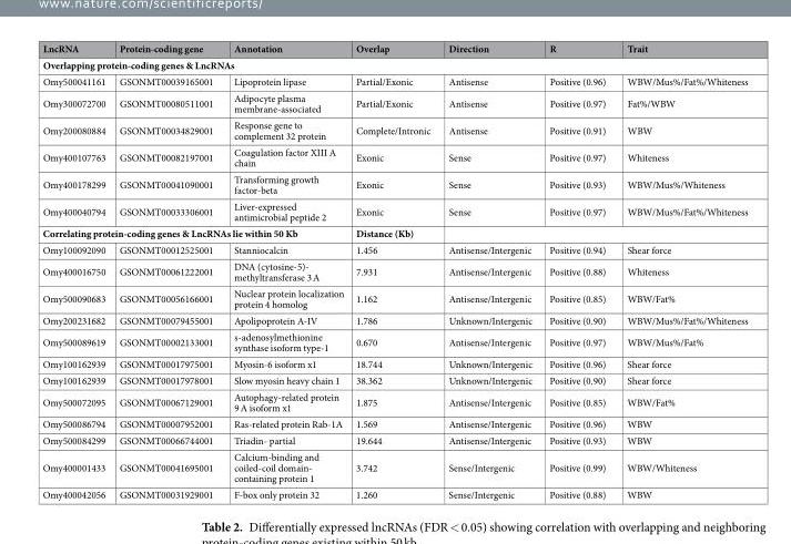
<table><thead><tr><td>LncRNA</td><td>Protein-coding gene</td><td>Annotation</td><td>Overlap</td><td>Direction</td><td>R</td><td>Trait</td></tr></thead><tbody><tr><td colspan="7">Overlapping protein-coding genes &amp; LncRNAs</td></tr><tr><td>Omy500041161</td><td>GSONMT00039165001</td><td>Lipoprotein lipase</td><td>Partial/Exonic</td><td>Antisense</td><td>Positive (0.96)</td><td>WBW/Mus%/Fat%/Whiteness</td></tr><tr><td>Omy300072700</td><td>GSONMT00080511001</td><td>Adipocyte plasma membrane-associated</td><td>Partial/Exonic</td><td>Antisense</td><td>Positive (0.97)</td><td>Fat%/WBW</td></tr><tr><td>Omy200080884</td><td>GSONMT00034829001</td><td>Response gene to complement 32 protein</td><td>Complete/Intronic</td><td>Antisense</td><td>Positive (0.91)</td><td>WBW</td></tr><tr><td>Omy400107763</td><td>GSONMT00082197001</td><td>Coagulation factor XIII A chain</td><td>Exonic</td><td>Sense</td><td>Positive (0.97)</td><td>Whiteness</td></tr><tr><td>Omy400178299</td><td>GSONMT00041090001</td><td>Transforming growth factor-beta</td><td>Exonic</td><td>Sense</td><td>Positive (0.93)</td><td>WBW/Mus%/Whiteness</td></tr><tr><td>Omy400040794</td><td>GSONMT00033306001</td><td>Liver-expressed antimicrobial peptide 2</td><td>Exonic</td><td>Sense</td><td>Positive (0.97)</td><td>WBW/Mus%/Fat%/Whiteness</td></tr><tr><td colspan="3">Correlating protein-coding genes &amp; LncRNAs lie within 50 Kb</td><td>Distance (Kb)</td><td colspan="3"></td></tr><tr><td>Omy100092090</td><td>GSONMT00012525001</td><td>Stanniocalcin</td><td>1.456</td><td>Antisense/Intergenic</td><td>Positive (0.94)</td><td>Shear force</td></tr><tr><td>Omy400016750</td><td>GSONMT00061222001</td><td>DNA (cytosine-5)- methyltransferase 3 A</td><td>7.931</td><td>Antisense/Intergenic</td><td>Positive (0.88)</td><td>Whiteness</td></tr><tr><td>Omy500090683</td><td>GSONMT00056166001</td><td>Nuclear protein localization protein 4 homolog</td><td>1.162</td><td>Antisense/Intergenic</td><td>Positive (0.85)</td><td>WBW/Fat%</td></tr><tr><td>Omy200231682</td><td>GSONMT00079455001</td><td>Apolipoprotein A-IV</td><td>1.786</td><td>Unknown/Intergenic</td><td>Positive (0.90)</td><td>WBW/Mus%/Fat%/Whiteness</td></tr><tr><td>Omy500089619</td><td>GSONMT00002133001</td><td>s-adenosylmethionine synthase isoform type-1</td><td>0.670</td><td>Antisense/Intergenic</td><td>Positive (0.97)</td><td>WBW/Mus%/Fat%</td></tr><tr><td>Omy100162939</td><td>GSONMT00017975001</td><td>Myosin-6 isoform x1</td><td>18.744</td><td>Unknown/Intergenic</td><td>Positive (0.96)</td><td>Shear force</td></tr><tr><td>Omy100162939</td><td>GSONMT00017978001</td><td>Slow myosin heavy chain 1</td><td>38.362</td><td>Unknown/Intergenic</td><td>Positive (0.90)</td><td>Shear force</td></tr><tr><td>Omy500072095</td><td>GSONMT00067129001</td><td>Autophagy-related protein 9 A isoform x1</td><td>1.875</td><td>Antisense/Intergenic</td><td>Positive (0.85)</td><td>WBW/Fat%</td></tr><tr><td>Omy500086794</td><td>GSONMT00007952001</td><td>Ras-related protein Rab-1A</td><td>1.569</td><td>Antisense/Intergenic</td><td>Positive (0.96)</td><td>WBW</td></tr><tr><td>Omy500084299</td><td>GSONMT00066744001</td><td>Triadin- partial</td><td>19.644</td><td>Antisense/Intergenic</td><td>Positive (0.93)</td><td>WBW</td></tr><tr><td>Omy400001433</td><td>GSONMT00041695001</td><td>Calcium-binding and coiled-coil domain- containing protein 1</td><td>3.742</td><td>Sense/Intergenic</td><td>Positive (0.99)</td><td>WBW/Whiteness</td></tr><tr><td>Omy400042056</td><td>GSONMT00031929001</td><td>F-box only protein 32</td><td>1.260</td><td>Sense/Intergenic</td><td>Positive (0.88)</td><td>WBW</td></tr></tbody></table>